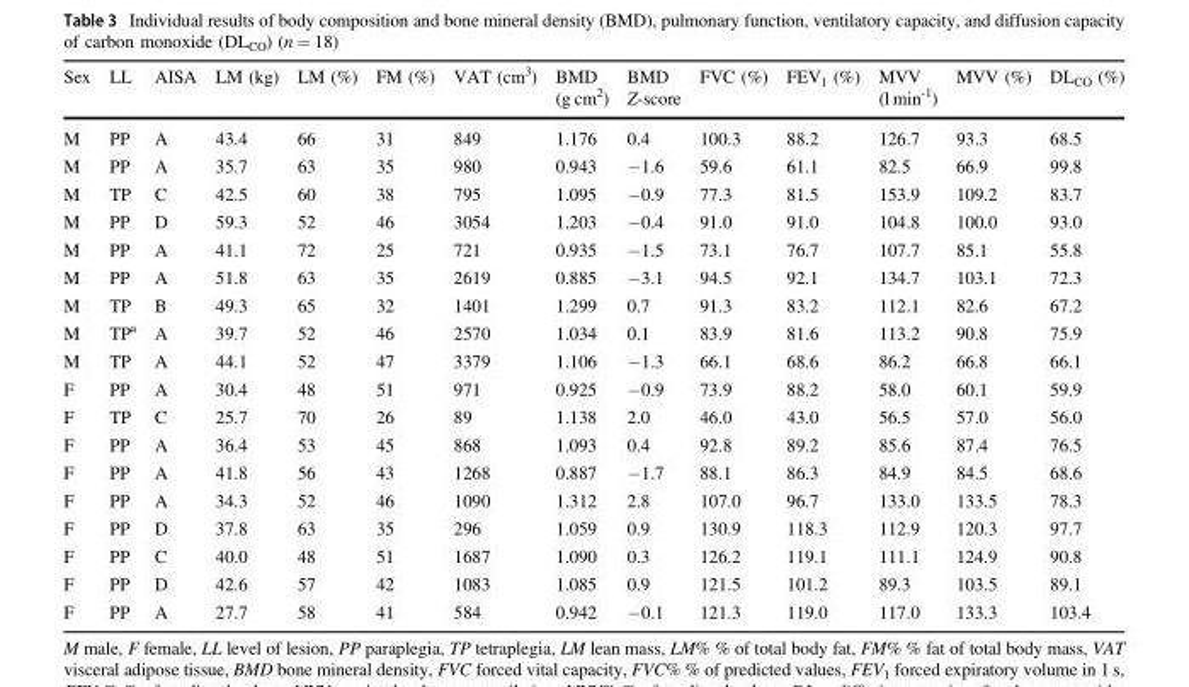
<table><thead><tr><td>Sex</td><td>LL</td><td>AISA</td><td>LM (kg)</td><td>LM (%)</td><td>FM (%)</td><td>VAT (cm<sup>3</sup>)</td><td>BMD (g cm<sup>2</sup>)</td><td>BMD Z-score</td><td>FVC (%)</td><td>FEV<sub>1</sub> (%)</td><td>MVV (l min<sup>-1</sup>)</td><td>MVV (%)</td><td>DL<sub>CO</sub> (%)</td></tr></thead><tbody><tr><td>M</td><td>PP</td><td>A</td><td>43.4</td><td>66</td><td>31</td><td>849</td><td>1.176</td><td>0.4</td><td>100.3</td><td>88.2</td><td>126.7</td><td>93.3</td><td>68.5</td></tr><tr><td>M</td><td>PP</td><td>A</td><td>35.7</td><td>63</td><td>35</td><td>980</td><td>0.943</td><td>−1.6</td><td>59.6</td><td>61.1</td><td>82.5</td><td>66.9</td><td>99.8</td></tr><tr><td>M</td><td>TP</td><td>C</td><td>42.5</td><td>60</td><td>38</td><td>795</td><td>1.095</td><td>−0.9</td><td>77.3</td><td>81.5</td><td>153.9</td><td>109.2</td><td>83.7</td></tr><tr><td>M</td><td>PP</td><td>D</td><td>59.3</td><td>52</td><td>46</td><td>3054</td><td>1.203</td><td>−0.4</td><td>91.0</td><td>91.0</td><td>104.8</td><td>100.0</td><td>93.0</td></tr><tr><td>M</td><td>PP</td><td>A</td><td>41.1</td><td>72</td><td>25</td><td>721</td><td>0.935</td><td>−1.5</td><td>73.1</td><td>76.7</td><td>107.7</td><td>85.1</td><td>55.8</td></tr><tr><td>M</td><td>PP</td><td>A</td><td>51.8</td><td>63</td><td>35</td><td>2619</td><td>0.885</td><td>−3.1</td><td>94.5</td><td>92.1</td><td>134.7</td><td>103.1</td><td>72.3</td></tr><tr><td>M</td><td>TP</td><td>B</td><td>49.3</td><td>65</td><td>32</td><td>1401</td><td>1.299</td><td>0.7</td><td>91.3</td><td>83.2</td><td>112.1</td><td>82.6</td><td>67.2</td></tr><tr><td>M</td><td>TP<sup>a</sup></td><td>A</td><td>39.7</td><td>52</td><td>46</td><td>2570</td><td>1.034</td><td>0.1</td><td>83.9</td><td>81.6</td><td>113.2</td><td>90.8</td><td>75.9</td></tr><tr><td>M</td><td>TP</td><td>A</td><td>44.1</td><td>52</td><td>47</td><td>3379</td><td>1.106</td><td>−1.3</td><td>66.1</td><td>68.6</td><td>86.2</td><td>66.8</td><td>66.1</td></tr><tr><td>F</td><td>PP</td><td>A</td><td>30.4</td><td>48</td><td>51</td><td>971</td><td>0.925</td><td>−0.9</td><td>73.9</td><td>88.2</td><td>58.0</td><td>60.1</td><td>59.9</td></tr><tr><td>F</td><td>TP</td><td>C</td><td>25.7</td><td>70</td><td>26</td><td>89</td><td>1.138</td><td>2.0</td><td>46.0</td><td>43.0</td><td>56.5</td><td>57.0</td><td>56.0</td></tr><tr><td>F</td><td>PP</td><td>A</td><td>36.4</td><td>53</td><td>45</td><td>868</td><td>1.093</td><td>0.4</td><td>92.8</td><td>89.2</td><td>85.6</td><td>87.4</td><td>76.5</td></tr><tr><td>F</td><td>PP</td><td>A</td><td>41.8</td><td>56</td><td>43</td><td>1268</td><td>0.887</td><td>−1.7</td><td>88.1</td><td>86.3</td><td>84.9</td><td>84.5</td><td>68.6</td></tr><tr><td>F</td><td>PP</td><td>A</td><td>34.3</td><td>52</td><td>46</td><td>1090</td><td>1.312</td><td>2.8</td><td>107.0</td><td>96.7</td><td>133.0</td><td>133.5</td><td>78.3</td></tr><tr><td>F</td><td>PP</td><td>D</td><td>37.8</td><td>63</td><td>35</td><td>296</td><td>1.059</td><td>0.9</td><td>130.9</td><td>118.3</td><td>112.9</td><td>120.3</td><td>97.7</td></tr><tr><td>F</td><td>PP</td><td>C</td><td>40.0</td><td>48</td><td>51</td><td>1687</td><td>1.090</td><td>0.3</td><td>126.2</td><td>119.1</td><td>111.1</td><td>124.9</td><td>90.8</td></tr><tr><td>F</td><td>PP</td><td>D</td><td>42.6</td><td>57</td><td>42</td><td>1083</td><td>1.085</td><td>0.9</td><td>121.5</td><td>101.2</td><td>89.3</td><td>103.5</td><td>89.1</td></tr><tr><td>F</td><td>PP</td><td>A</td><td>27.7</td><td>58</td><td>41</td><td>584</td><td>0.942</td><td>−0.1</td><td>121.3</td><td>119.0</td><td>117.0</td><td>133.3</td><td>103.4</td></tr></tbody></table>